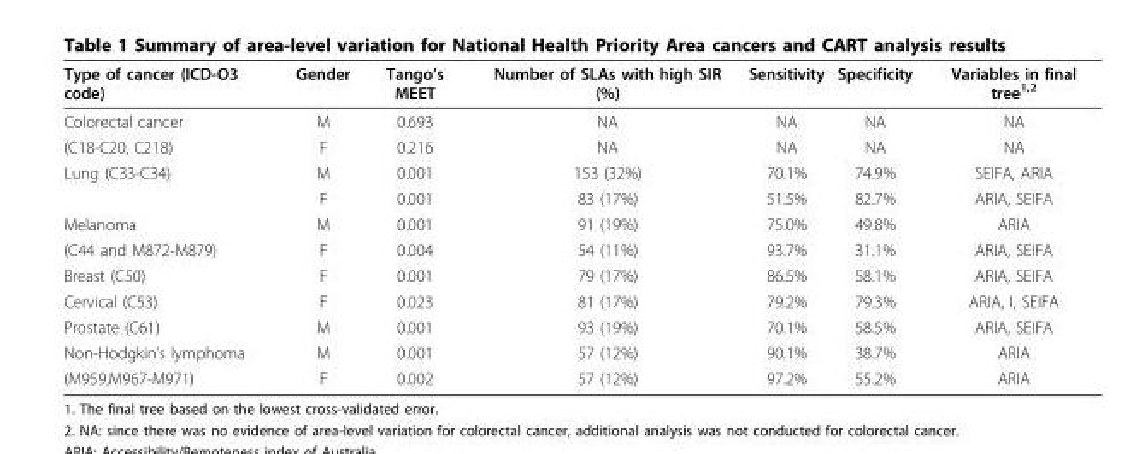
<table><thead><tr><td>Type of cancer (ICD-O3 code)</td><td>Gender</td><td>Tango’s MEET</td><td>Number of SLAs with high SIR (%)</td><td>Sensitivity</td><td>Specificity</td><td>Variables in final tree<sup>1,2</sup></td></tr></thead><tbody><tr><td>Colorectal cancer</td><td>M</td><td>0.693</td><td>NA</td><td>NA</td><td>NA</td><td>NA</td></tr><tr><td>(C18-C20, C218)</td><td>F</td><td>0.216</td><td>NA</td><td>NA</td><td>NA</td><td>NA</td></tr><tr><td rowspan="2">Lung (C33-C34)</td><td>M</td><td>0.001</td><td>153 (32%)</td><td>70.1%</td><td>74.9%</td><td>SEIFA, ARIA</td></tr><tr><td>F</td><td>0.001</td><td>83 (17%)</td><td>51.5%</td><td>82.7%</td><td>ARIA, SEIFA</td></tr><tr><td>Melanoma</td><td>M</td><td>0.001</td><td>91 (19%)</td><td>75.0%</td><td>49.8%</td><td>ARIA</td></tr><tr><td>(C44 and M872-M879)</td><td>F</td><td>0.004</td><td>54 (11%)</td><td>93.7%</td><td>31.1%</td><td>ARIA, SEIFA</td></tr><tr><td>Breast (C50)</td><td>F</td><td>0.001</td><td>79 (17%)</td><td>86.5%</td><td>58.1%</td><td>ARIA, SEIFA</td></tr><tr><td>Cervical (C53)</td><td>F</td><td>0.023</td><td>81 (17%)</td><td>79.2%</td><td>79.3%</td><td>ARIA, I, SEIFA</td></tr><tr><td>Prostate (C61)</td><td>M</td><td>0.001</td><td>93 (19%)</td><td>70.1%</td><td>58.5%</td><td>ARIA, SEIFA</td></tr><tr><td>Non-Hodgkin’s lymphoma</td><td>M</td><td>0.001</td><td>57 (12%)</td><td>90.1%</td><td>38.7%</td><td>ARIA</td></tr><tr><td>(M959,M967-M971)</td><td>F</td><td>0.002</td><td>57 (12%)</td><td>97.2%</td><td>55.2%</td><td>ARIA</td></tr></tbody></table>